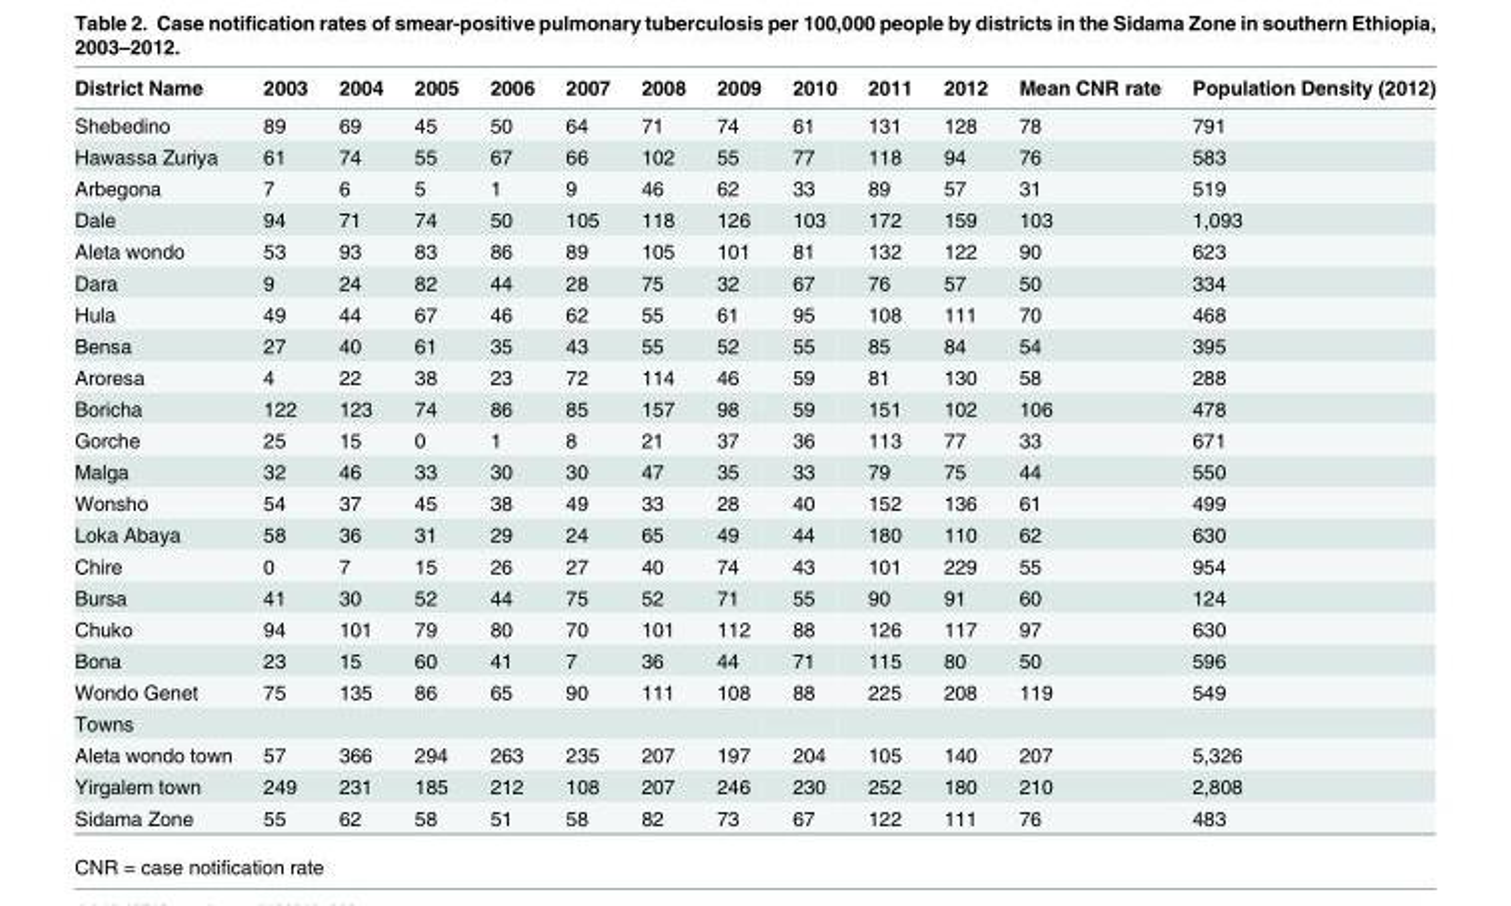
<table><thead><tr><td>District Name</td><td>2003</td><td>2004</td><td>2005</td><td>2006</td><td>2007</td><td>2008</td><td>2009</td><td>2010</td><td>2011</td><td>2012</td><td>Mean CNR rate</td><td>Population Density (2012)</td></tr></thead><tbody><tr><td>Shebedino</td><td>89</td><td>69</td><td>45</td><td>50</td><td>64</td><td>71</td><td>74</td><td>61</td><td>131</td><td>128</td><td>78</td><td>791</td></tr><tr><td>Hawassa Zuriya</td><td>61</td><td>74</td><td>55</td><td>67</td><td>66</td><td>102</td><td>55</td><td>77</td><td>118</td><td>94</td><td>76</td><td>583</td></tr><tr><td>Arbegona</td><td>7</td><td>6</td><td>5</td><td>1</td><td>9</td><td>46</td><td>62</td><td>33</td><td>89</td><td>57</td><td>31</td><td>519</td></tr><tr><td>Dale</td><td>94</td><td>71</td><td>74</td><td>50</td><td>105</td><td>118</td><td>126</td><td>103</td><td>172</td><td>159</td><td>103</td><td>1,093</td></tr><tr><td>Aleta wondo</td><td>53</td><td>93</td><td>83</td><td>86</td><td>89</td><td>105</td><td>101</td><td>81</td><td>132</td><td>122</td><td>90</td><td>623</td></tr><tr><td>Dara</td><td>9</td><td>24</td><td>82</td><td>44</td><td>28</td><td>75</td><td>32</td><td>67</td><td>76</td><td>57</td><td>50</td><td>334</td></tr><tr><td>Hula</td><td>49</td><td>44</td><td>67</td><td>46</td><td>62</td><td>55</td><td>61</td><td>95</td><td>108</td><td>111</td><td>70</td><td>468</td></tr><tr><td>Bensa</td><td>27</td><td>40</td><td>61</td><td>35</td><td>43</td><td>55</td><td>52</td><td>55</td><td>85</td><td>84</td><td>54</td><td>395</td></tr><tr><td>Aroresa</td><td>4</td><td>22</td><td>38</td><td>23</td><td>72</td><td>114</td><td>46</td><td>59</td><td>81</td><td>130</td><td>58</td><td>288</td></tr><tr><td>Boricha</td><td>122</td><td>123</td><td>74</td><td>86</td><td>85</td><td>157</td><td>98</td><td>59</td><td>151</td><td>102</td><td>106</td><td>478</td></tr><tr><td>Gorche</td><td>25</td><td>15</td><td>0</td><td>1</td><td>8</td><td>21</td><td>37</td><td>36</td><td>113</td><td>77</td><td>33</td><td>671</td></tr><tr><td>Malga</td><td>32</td><td>46</td><td>33</td><td>30</td><td>30</td><td>47</td><td>35</td><td>33</td><td>79</td><td>75</td><td>44</td><td>550</td></tr><tr><td>Wonsho</td><td>54</td><td>37</td><td>45</td><td>38</td><td>49</td><td>33</td><td>28</td><td>40</td><td>152</td><td>136</td><td>61</td><td>499</td></tr><tr><td>Loka Abaya</td><td>58</td><td>36</td><td>31</td><td>29</td><td>24</td><td>65</td><td>49</td><td>44</td><td>180</td><td>110</td><td>62</td><td>630</td></tr><tr><td>Chire</td><td>0</td><td>7</td><td>15</td><td>26</td><td>27</td><td>40</td><td>74</td><td>43</td><td>101</td><td>229</td><td>55</td><td>954</td></tr><tr><td>Bursa</td><td>41</td><td>30</td><td>52</td><td>44</td><td>75</td><td>52</td><td>71</td><td>55</td><td>90</td><td>91</td><td>60</td><td>124</td></tr><tr><td>Chuko</td><td>94</td><td>101</td><td>79</td><td>80</td><td>70</td><td>101</td><td>112</td><td>88</td><td>126</td><td>117</td><td>97</td><td>630</td></tr><tr><td>Bona</td><td>23</td><td>15</td><td>60</td><td>41</td><td>7</td><td>36</td><td>44</td><td>71</td><td>115</td><td>80</td><td>50</td><td>596</td></tr><tr><td>Wondo Genet</td><td>75</td><td>135</td><td>86</td><td>65</td><td>90</td><td>111</td><td>108</td><td>88</td><td>225</td><td>208</td><td>119</td><td>549</td></tr><tr><td colspan="13">Towns</td></tr><tr><td>Aleta wondo town</td><td>57</td><td>366</td><td>294</td><td>263</td><td>235</td><td>207</td><td>197</td><td>204</td><td>105</td><td>140</td><td>207</td><td>5,326</td></tr><tr><td>Yirgalem town</td><td>249</td><td>231</td><td>185</td><td>212</td><td>108</td><td>207</td><td>246</td><td>230</td><td>252</td><td>180</td><td>210</td><td>2,808</td></tr><tr><td>Sidama Zone</td><td>55</td><td>62</td><td>58</td><td>51</td><td>58</td><td>82</td><td>73</td><td>67</td><td>122</td><td>111</td><td>76</td><td>483</td></tr></tbody></table>